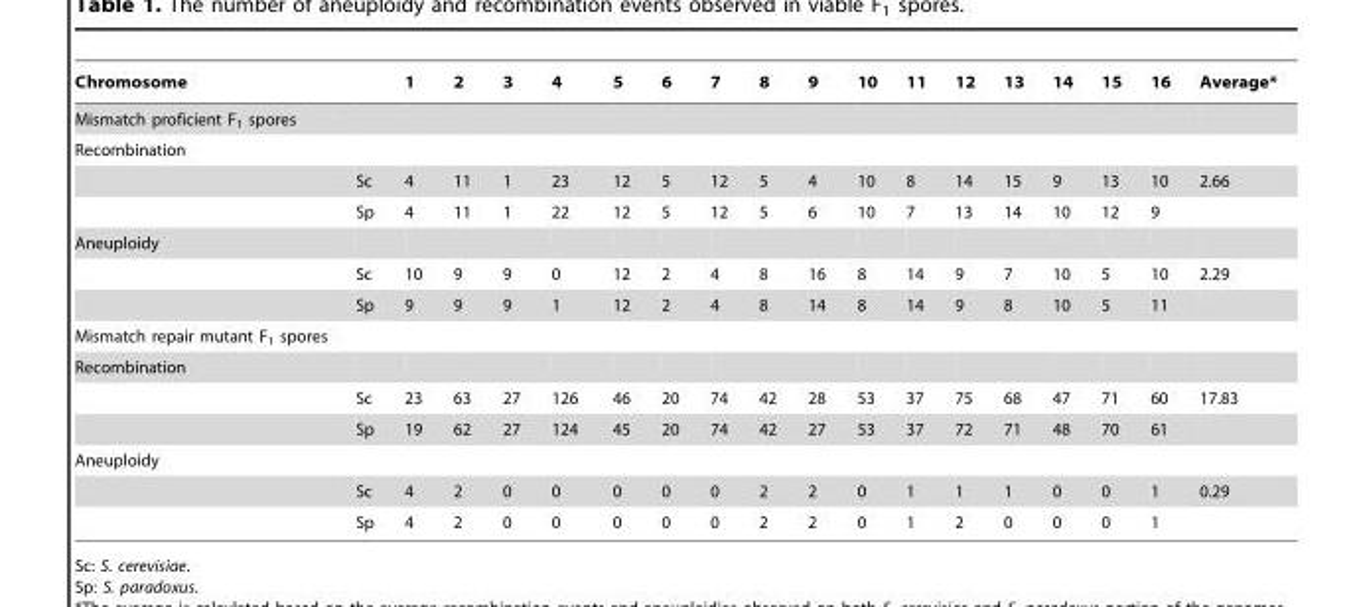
<table><thead><tr><td>Chromosome</td><td></td><td>1</td><td>2</td><td>3</td><td>4</td><td>5</td><td>6</td><td>7</td><td>8</td><td>9</td><td>10</td><td>11</td><td>12</td><td>13</td><td>14</td><td>15</td><td>16</td><td>Average*</td></tr></thead><tbody><tr><td colspan="19">Mismatch proficient F<sub>1</sub> spores</td></tr><tr><td colspan="19">Recombination</td></tr><tr><td></td><td>Sc</td><td>4</td><td>11</td><td>1</td><td>23</td><td>12</td><td>5</td><td>12</td><td>5</td><td>4</td><td>10</td><td>8</td><td>14</td><td>15</td><td>9</td><td>13</td><td>10</td><td>2.66</td></tr><tr><td></td><td>Sp</td><td>4</td><td>11</td><td>1</td><td>22</td><td>12</td><td>5</td><td>12</td><td>5</td><td>6</td><td>10</td><td>7</td><td>13</td><td>14</td><td>10</td><td>12</td><td>9</td><td></td></tr><tr><td colspan="19">Aneuploidy</td></tr><tr><td></td><td>Sc</td><td>10</td><td>9</td><td>9</td><td>0</td><td>12</td><td>2</td><td>4</td><td>8</td><td>16</td><td>8</td><td>14</td><td>9</td><td>7</td><td>10</td><td>5</td><td>10</td><td>2.29</td></tr><tr><td></td><td>Sp</td><td>9</td><td>9</td><td>9</td><td>1</td><td>12</td><td>2</td><td>4</td><td>8</td><td>14</td><td>8</td><td>14</td><td>9</td><td>8</td><td>10</td><td>5</td><td>11</td><td></td></tr><tr><td colspan="19">Mismatch repair mutant F<sub>1</sub> spores</td></tr><tr><td colspan="19">Recombination</td></tr><tr><td></td><td>Sc</td><td>23</td><td>63</td><td>27</td><td>126</td><td>46</td><td>20</td><td>74</td><td>42</td><td>28</td><td>53</td><td>37</td><td>75</td><td>68</td><td>47</td><td>71</td><td>60</td><td>17.83</td></tr><tr><td></td><td>Sp</td><td>19</td><td>62</td><td>27</td><td>124</td><td>45</td><td>20</td><td>74</td><td>42</td><td>27</td><td>53</td><td>37</td><td>72</td><td>71</td><td>48</td><td>70</td><td>61</td><td></td></tr><tr><td colspan="19">Aneuploidy</td></tr><tr><td></td><td>Sc</td><td>4</td><td>2</td><td>0</td><td>0</td><td>0</td><td>0</td><td>0</td><td>2</td><td>2</td><td>0</td><td>1</td><td>1</td><td>1</td><td>0</td><td>0</td><td>1</td><td>0.29</td></tr><tr><td></td><td>Sp</td><td>4</td><td>2</td><td>0</td><td>0</td><td>0</td><td>0</td><td>0</td><td>2</td><td>2</td><td>0</td><td>1</td><td>2</td><td>0</td><td>0</td><td>0</td><td>1</td><td></td></tr></tbody></table>